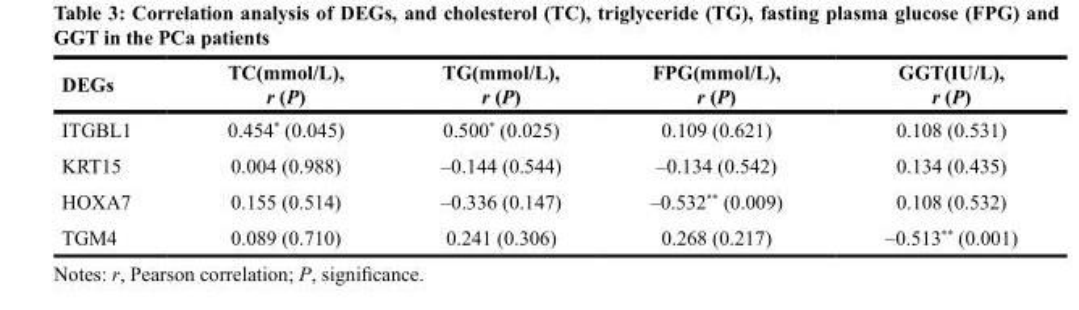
<table><thead><tr><td>DEGs</td><td>TC(mmol/L), r (P)</td><td>TG(mmol/L), r (P)</td><td>FPG(mmol/L), r (P)</td><td>GGT(IU/L), r (P)</td></tr></thead><tbody><tr><td>ITGBL1</td><td>0.454* (0.045)</td><td>0.500* (0.025)</td><td>0.109 (0.621)</td><td>0.108 (0.531)</td></tr><tr><td>KRT15</td><td>0.004 (0.988)</td><td>–0.144 (0.544)</td><td>–0.134 (0.542)</td><td>0.134 (0.435)</td></tr><tr><td>HOXA7</td><td>0.155 (0.514)</td><td>–0.336 (0.147)</td><td>–0.532** (0.009)</td><td>0.108 (0.532)</td></tr><tr><td>TGM4</td><td>0.089 (0.710)</td><td>0.241 (0.306)</td><td>0.268 (0.217)</td><td>–0.513** (0.001)</td></tr></tbody></table>